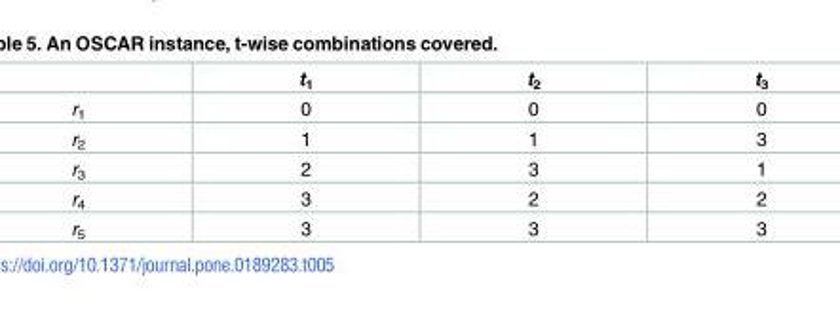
<table><thead><tr><td></td><td>t<sub>1</sub></td><td>t<sub>2</sub></td><td>t<sub>3</sub></td></tr></thead><tbody><tr><td>r<sub>1</sub></td><td>0</td><td>0</td><td>0</td></tr><tr><td>r<sub>2</sub></td><td>1</td><td>1</td><td>3</td></tr><tr><td>r<sub>3</sub></td><td>2</td><td>3</td><td>1</td></tr><tr><td>r<sub>4</sub></td><td>3</td><td>2</td><td>2</td></tr><tr><td>r<sub>5</sub></td><td>3</td><td>3</td><td>3</td></tr></tbody></table>